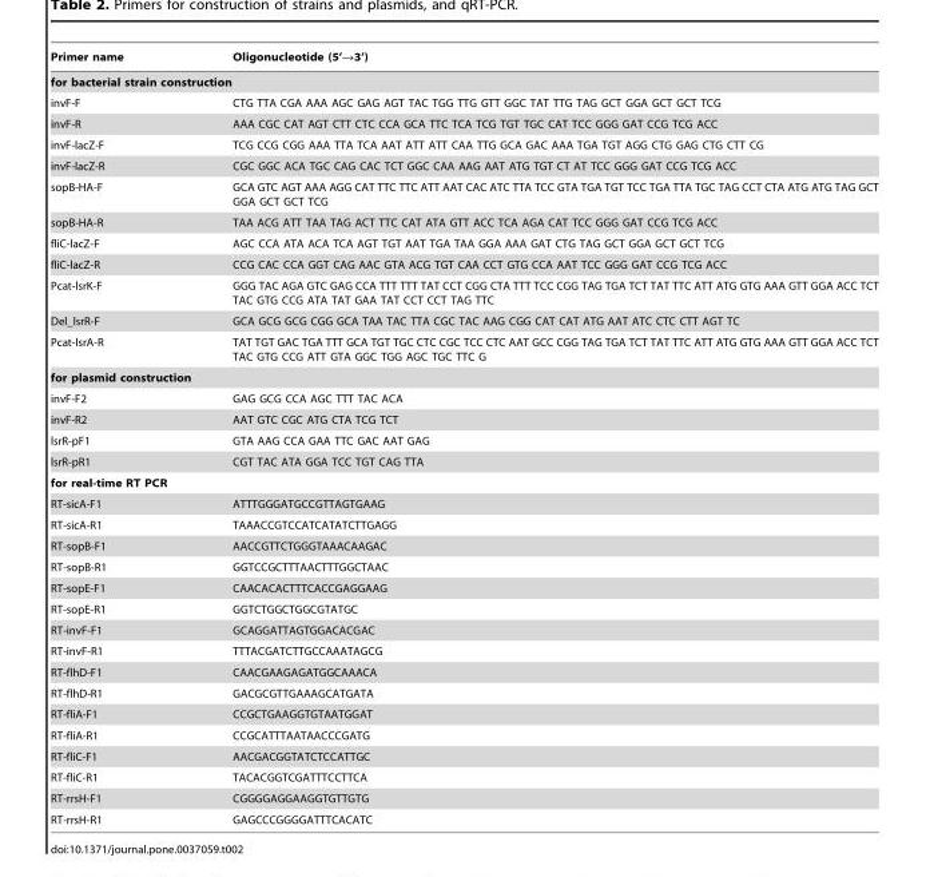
<table><thead><tr><td>Primer name</td><td>Oligonucleotide (5’→3’)</td></tr></thead><tbody><tr><td colspan="2">for bacterial strain construction</td></tr><tr><td>invF-F</td><td>CTG TTA CGA AAA AGC GAG AGT TAC TGG TTG GTT GGC TAT TTG TAG GCT GGA GCT GCT TCG</td></tr><tr><td>invF-R</td><td>AAA CGC CAT AGT CTT CTC CCA GCA TTC TCA TCG TGT TGC CAT TCC GGG GAT CCG TCG ACC</td></tr><tr><td>invF-lacZ-F</td><td>TCG CCG CGG AAA TTA TCA AAT ATT ATT CAA TTG GCA GAC AAA TGA TGT AGG CTG GAG CTG CTT CG</td></tr><tr><td>invF-lacZ-R</td><td>CGC GGC ACA TGC CAG CAC TCT GGC CAA AAG AAT ATG TGT CT AT TCC GGG GAT CCG TCG ACC</td></tr><tr><td>sopB-HA-F</td><td>GCA GTC AGT AAA AGG CAT TTC TTC ATT AAT CAC ATC TTA TCC GTA TGA TGT TCC TGA TTA TGC TAG CCT CTA ATG ATG TAG GCT GGA GCT GCT TCG</td></tr><tr><td>sopB-HA-R</td><td>TAA ACG ATT TAA TAG ACT TTC CAT ATA GTT ACC TCA AGA CAT TCC GGG GAT CCG TCG ACC</td></tr><tr><td>fliC-lacZ-F</td><td>AGC CCA ATA ACA TCA AGT TGT AAT TGA TAA GGA AAA GAT CTG TAG GCT GGA GCT GCT TCG</td></tr><tr><td>fliC-lacZ-R</td><td>CCG CAC CCA GGT CAG AAC GTA ACG TGT CAA CCT GTG CCA AAT TCC GGG GAT CCG TCG ACC</td></tr><tr><td>Pcat-lsrK-F</td><td>GGG TAC AGA GTC GAG CCA TTT TTT TAT CCT CGG CTA TTT TCC CGG TAG TGA TCT TAT TTC ATT ATG GTG AAA GTT GGA ACC TCT TAC GTG CCG ATA TAT GAA TAT CCT CCT TAG TTC</td></tr><tr><td>Del_lsrR-F</td><td>GCA GCG GCG CGG GCA TAA TAC TTA CGC TAC AAG CGG CAT CAT ATG AAT ATC CTC CTT AGT TC</td></tr><tr><td>Pcat-lsrA-R</td><td>TAT TGT GAC TGA TTT GCA TGT TGC CTC CGC TCC CTC AAT GCC CGG TAG TGA TCT TAT TTC ATT ATG GTG AAA GTT GGA ACC TCT TAC GTG CCG ATT GTA GGC TGG AGC TGC TTC G</td></tr><tr><td colspan="2">for plasmid construction</td></tr><tr><td>invF-F2</td><td>GAG GCG CCA AGC TTT TAC ACA</td></tr><tr><td>invF-R2</td><td>AAT GTC CGC ATG CTA TCG TCT</td></tr><tr><td>lsrR-pF1</td><td>GTA AAG CCA GAA TTC GAC AAT GAG</td></tr><tr><td>lsrR-pR1</td><td>CGT TAC ATA GGA TCC TGT CAG TTA</td></tr><tr><td colspan="2">for real-time RT PCR</td></tr><tr><td>RT-sicA-F1</td><td>ATTTGGGATGCCGTTAGTGAAG</td></tr><tr><td>RT-sicA-R1</td><td>TAAACCGTCCATCATATCTTGAGG</td></tr><tr><td>RT-sopB-F1</td><td>AACCGTTCTGGGTAAACAAGAC</td></tr><tr><td>RT-sopB-R1</td><td>GGTCCGCTTTAACTTTGGCTAAC</td></tr><tr><td>RT-sopE-F1</td><td>CAACACACTTTCACCGAGGAAG</td></tr><tr><td>RT-sopE-R1</td><td>GGTCTGGCTGGCGTATGC</td></tr><tr><td>RT-invF-F1</td><td>GCAGGATTAGTGGACACGAC</td></tr><tr><td>RT-invF-R1</td><td>TTTACGATCTTGCCAAATAGCG</td></tr><tr><td>RT-flhD-F1</td><td>CAACGAAGAGATGGCAAACA</td></tr><tr><td>RT-flhD-R1</td><td>GACGCGTTGAAAGCATGATA</td></tr><tr><td>RT-fliA-F1</td><td>CCGCTGAAGGTGTAATGGAT</td></tr><tr><td>RT-fliA-R1</td><td>CCGCATTTAATAACCCGATG</td></tr><tr><td>RT-fliC-F1</td><td>AACGACGGTATCTCCATTGC</td></tr><tr><td>RT-fliC-R1</td><td>TACACGGTCGATTTCCTTCA</td></tr><tr><td>RT-rrsH-F1</td><td>CGGGGAGGAAGGTGTTGTG</td></tr><tr><td>RT-rrsH-R1</td><td>GAGCCCGGGGATTTCACATC</td></tr></tbody></table>